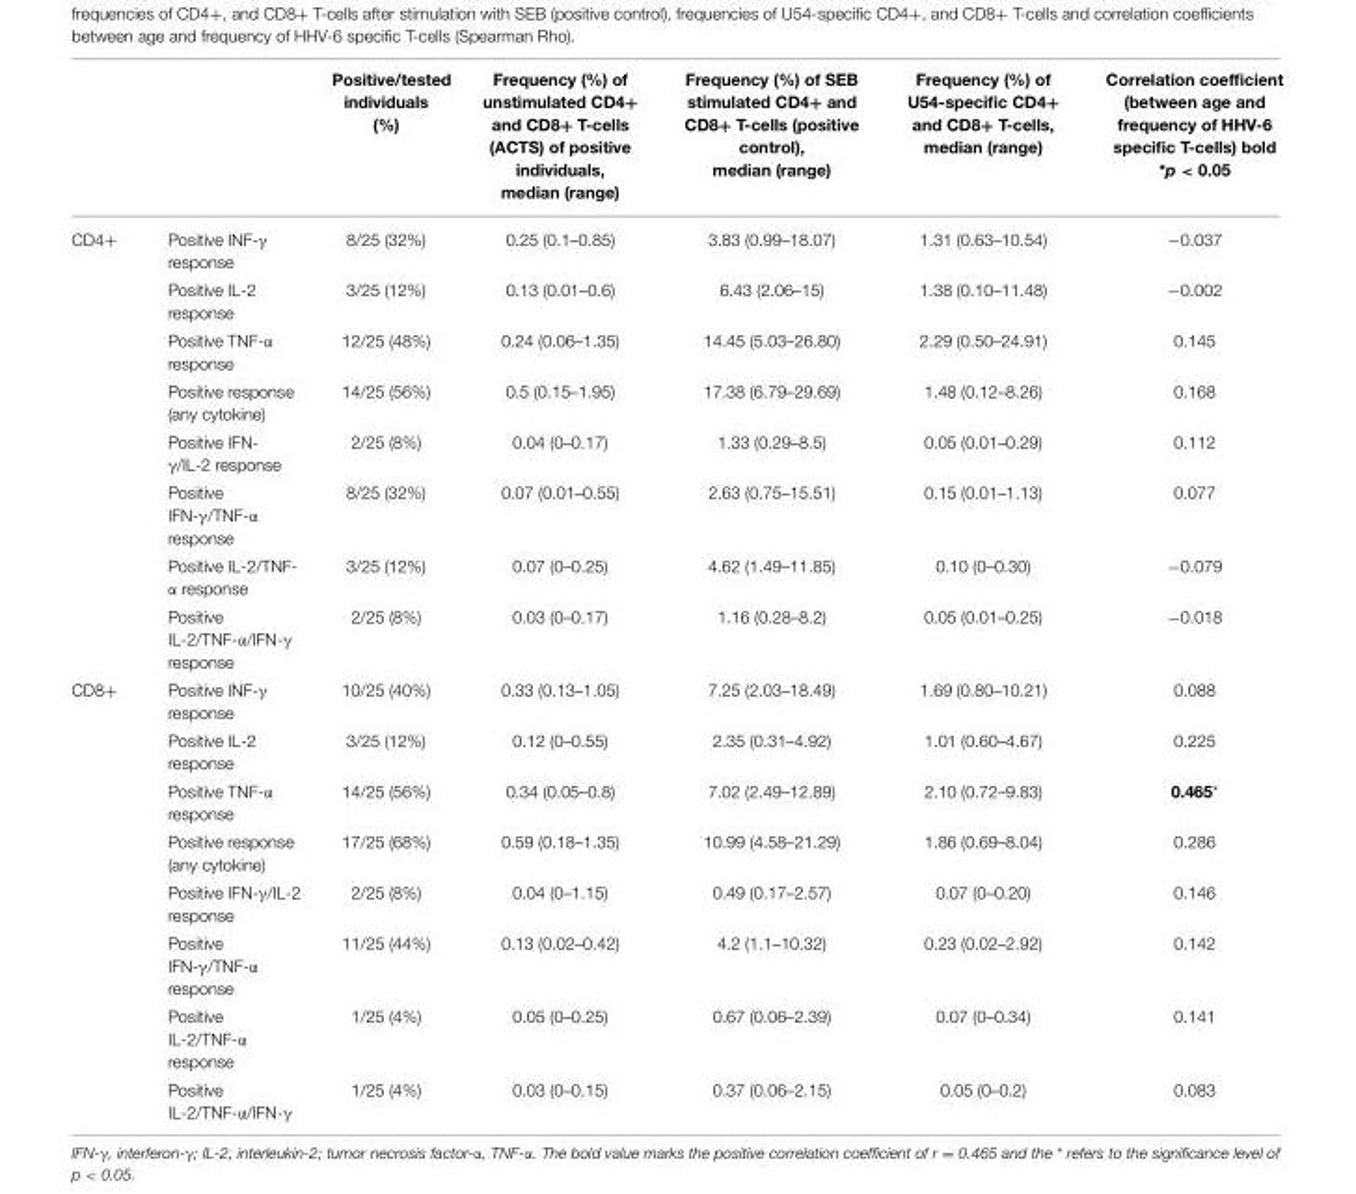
<table><thead><tr><td></td><td></td><td>Positive/tested individuals (%)</td><td>Frequency (%) of unstimulated CD4+ and CD8+ T-cells (ACTS) of positive individuals, median (range)</td><td>Frequency (%) of SEB stimulated CD4+ and CD8+ T-cells (positive control), median (range)</td><td>Frequency (%) of U54-specific CD4+ and CD8+ T-cells, median (range)</td><td>Correlation coefficient (between age and frequency of HHV-6 specific T-cells) bold *p &lt; 0.05</td></tr></thead><tbody><tr><td rowspan="8">CD4+</td><td>Positive INF-γ response</td><td>8/25 (32%)</td><td>0.25 (0.1–0.85)</td><td>3.83 (0.99–18.07)</td><td>1.31 (0.63–10.54)</td><td>−0.037</td></tr><tr><td>Positive IL-2 response</td><td>3/25 (12%)</td><td>0.13 (0.01–0.6)</td><td>6.43 (2.06–15)</td><td>1.38 (0.10–11.48)</td><td>−0.002</td></tr><tr><td>Positive TNF-α response</td><td>12/25 (48%)</td><td>0.24 (0.06–1.35)</td><td>14.45 (5.03–26.80)</td><td>2.29 (0.50–24.91)</td><td>0.145</td></tr><tr><td>Positive response (any cytokine)</td><td>14/25 (56%)</td><td>0.5 (0.15–1.95)</td><td>17.38 (6.79–29.69)</td><td>1.48 (0.12–8.26)</td><td>0.168</td></tr><tr><td>Positive IFN- γ/IL-2 response</td><td>2/25 (8%)</td><td>0.04 (0–0.17)</td><td>1.33 (0.29–8.5)</td><td>0.05 (0.01–0.29)</td><td>0.112</td></tr><tr><td>Positive IFN-γ/TNF-α response</td><td>8/25 (32%)</td><td>0.07 (0.01–0.55)</td><td>2.63 (0.75–15.51)</td><td>0.15 (0.01–1.13)</td><td>0.077</td></tr><tr><td>Positive IL-2/TNF- α response</td><td>3/25 (12%)</td><td>0.07 (0–0.25)</td><td>4.62 (1.49–11.85)</td><td>0.10 (0–0.30)</td><td>−0.079</td></tr><tr><td>Positive IL-2/TNF-α/IFN-γ response</td><td>2/25 (8%)</td><td>0.03 (0–0.17)</td><td>1.16 (0.28–8.2)</td><td>0.05 (0.01–0.25)</td><td>−0.018</td></tr><tr><td rowspan="8">CD8+</td><td>Positive INF-γ response</td><td>10/25 (40%)</td><td>0.33 (0.13–1.05)</td><td>7.25 (2.03–18.49)</td><td>1.69 (0.80–10.21)</td><td>0.088</td></tr><tr><td>Positive IL-2 response</td><td>3/25 (12%)</td><td>0.12 (0–0.55)</td><td>2.35 (0.31–4.92)</td><td>1.01 (0.60–4.67)</td><td>0.225</td></tr><tr><td>Positive TNF-α response</td><td>14/25 (56%)</td><td>0.34 (0.05–0.8)</td><td>7.02 (2.49–12.89)</td><td>2.10 (0.72–9.83)</td><td>0.465*</td></tr><tr><td>Positive response (any cytokine)</td><td>17/25 (68%)</td><td>0.59 (0.18–1.35)</td><td>10.99 (4.58–21.29)</td><td>1.86 (0.69–8.04)</td><td>0.286</td></tr><tr><td>Positive IFN-γ/IL-2 response</td><td>2/25 (8%)</td><td>0.04 (0–1.15)</td><td>0.49 (0.17–2.57)</td><td>0.07 (0–0.20)</td><td>0.146</td></tr><tr><td>Positive IFN-γ/TNF-α response</td><td>11/25 (44%)</td><td>0.13 (0.02–0.42)</td><td>4.2 (1.1–10.32)</td><td>0.23 (0.02–2.92)</td><td>0.142</td></tr><tr><td>Positive IL-2/TNF-α response</td><td>1/25 (4%)</td><td>0.05 (0–0.25)</td><td>0.67 (0.06–2.39)</td><td>0.07 (0–0.34)</td><td>0.141</td></tr><tr><td>Positive IL-2/TNF-α/IFN-γ</td><td>1/25 (4%)</td><td>0.03 (0–0.15)</td><td>0.37 (0.06–2.15)</td><td>0.05 (0–0.2)</td><td>0.083</td></tr></tbody></table>